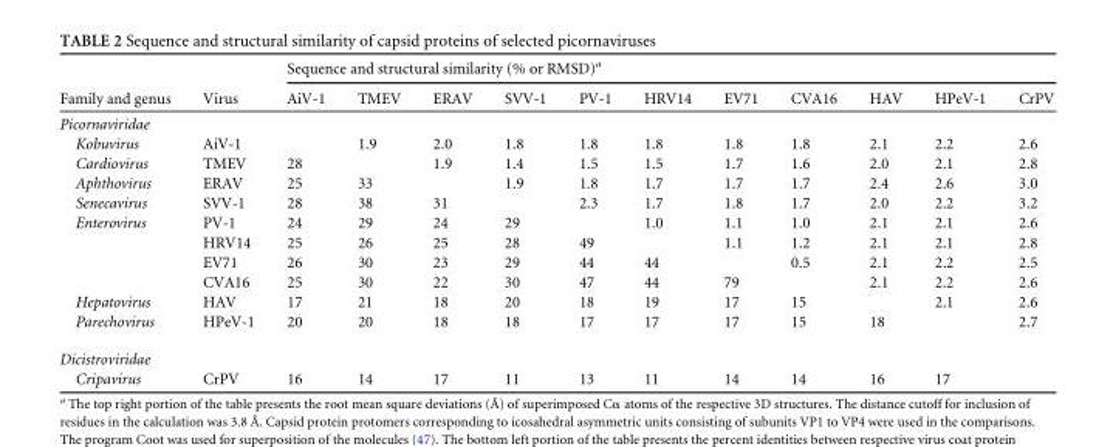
<table><thead><tr><td rowspan="2">Family and genus</td><td rowspan="2">Virus</td><td colspan="11">Sequence and structural similarity (% or RMSD)<sup>a</sup></td></tr><tr><td>AiV-1</td><td>TMEV</td><td>ERAV</td><td>SVV-1</td><td>PV-1</td><td>HRV14</td><td>EV71</td><td>CVA16</td><td>HAV</td><td>HPeV-1</td><td>CrPV</td></tr></thead><tbody><tr><td colspan="13">Picornaviridae</td></tr><tr><td>Kobuvirus</td><td>AiV-1</td><td></td><td>1.9</td><td>2.0</td><td>1.8</td><td>1.8</td><td>1.8</td><td>1.8</td><td>1.8</td><td>2.1</td><td>2.2</td><td>2.6</td></tr><tr><td>Cardiovirus</td><td>TMEV</td><td>28</td><td></td><td>1.9</td><td>1.4</td><td>1.5</td><td>1.5</td><td>1.7</td><td>1.6</td><td>2.0</td><td>2.1</td><td>2.8</td></tr><tr><td>Aphthovirus</td><td>ERAV</td><td>25</td><td>33</td><td></td><td>1.9</td><td>1.8</td><td>1.7</td><td>1.7</td><td>1.7</td><td>2.4</td><td>2.6</td><td>3.0</td></tr><tr><td>Senecavirus</td><td>SVV-1</td><td>28</td><td>38</td><td>31</td><td></td><td>2.3</td><td>1.7</td><td>1.8</td><td>1.7</td><td>2.0</td><td>2.2</td><td>3.2</td></tr><tr><td rowspan="4">Enterovirus</td><td>PV-1</td><td>24</td><td>29</td><td>24</td><td>29</td><td></td><td>1.0</td><td>1.1</td><td>1.0</td><td>2.1</td><td>2.1</td><td>2.6</td></tr><tr><td>HRV14</td><td>25</td><td>26</td><td>25</td><td>28</td><td>49</td><td></td><td>1.1</td><td>1.2</td><td>2.1</td><td>2.1</td><td>2.8</td></tr><tr><td>EV71</td><td>26</td><td>30</td><td>23</td><td>29</td><td>44</td><td>44</td><td></td><td>0.5</td><td>2.1</td><td>2.2</td><td>2.5</td></tr><tr><td>CVA16</td><td>25</td><td>30</td><td>22</td><td>30</td><td>47</td><td>44</td><td>79</td><td></td><td>2.1</td><td>2.2</td><td>2.6</td></tr><tr><td>Hepatovirus</td><td>HAV</td><td>17</td><td>21</td><td>18</td><td>20</td><td>18</td><td>19</td><td>17</td><td>15</td><td></td><td>2.1</td><td>2.6</td></tr><tr><td>Parechovirus</td><td>HPeV-1</td><td>20</td><td>20</td><td>18</td><td>18</td><td>17</td><td>17</td><td>17</td><td>15</td><td>18</td><td></td><td>2.7</td></tr><tr><td colspan="13">Dicistroviridae</td></tr><tr><td>Cripavirus</td><td>CrPV</td><td>16</td><td>14</td><td>17</td><td>11</td><td>13</td><td>11</td><td>14</td><td>14</td><td>16</td><td>17</td><td></td></tr></tbody></table>